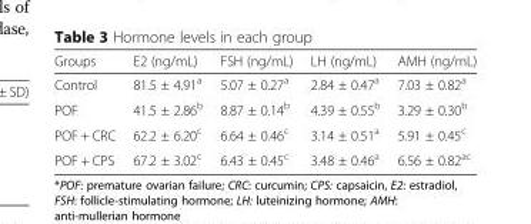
<table><thead><tr><td>Groups</td><td>E2 (ng/mL)</td><td>FSH (ng/mL)</td><td>LH (ng/mL)</td><td>AMH (ng/mL)</td></tr></thead><tbody><tr><td>Control</td><td>81.5 ± 4.91<sup>a</sup></td><td>5.07 ± 0.27<sup>a</sup></td><td>2.84 ± 0.47<sup>a</sup></td><td>7.03 ± 0.82<sup>a</sup></td></tr><tr><td>POF</td><td>41.5 ± 2.86<sup>b</sup></td><td>8.87 ± 0.14<sup>b</sup></td><td>4.39 ± 0.55<sup>b</sup></td><td>3.29 ± 0.30<sup>b</sup></td></tr><tr><td>POF + CRC</td><td>62.2 ± 6.20<sup>c</sup></td><td>6.64 ± 0.46<sup>c</sup></td><td>3.14 ± 0.51<sup>a</sup></td><td>5.91 ± 0.45<sup>c</sup></td></tr><tr><td>POF + CPS</td><td>67.2 ± 3.02<sup>c</sup></td><td>6.43 ± 0.45<sup>c</sup></td><td>3.48 ± 0.46<sup>a</sup></td><td>6.56 ± 0.82<sup>ac</sup></td></tr></tbody></table>